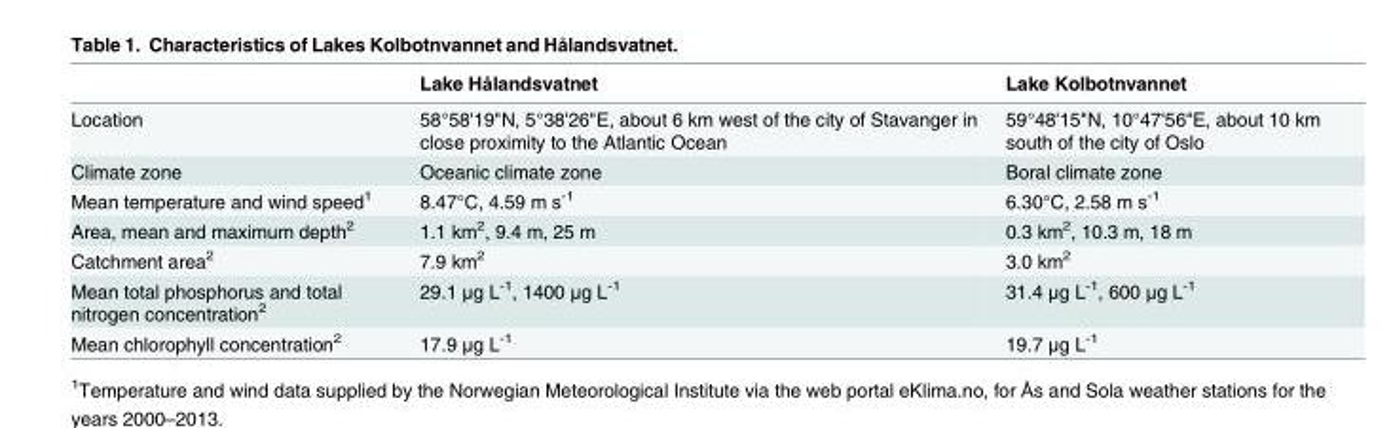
<table><thead><tr><td></td><td>Lake Hålandsvatnet</td><td>Lake Kolbotnvannet</td></tr></thead><tbody><tr><td>Location</td><td>58°58&#x27;19&quot;N, 5°38&#x27;26&quot;E, about 6 km west of the city of Stavanger in close proximity to the Atlantic Ocean</td><td>59°48&#x27;15&quot;N, 10°47&#x27;56&quot;E, about 10 km south of the city of Oslo</td></tr><tr><td>Climate zone</td><td>Oceanic climate zone</td><td>Boral climate zone</td></tr><tr><td>Mean temperature and wind speed<sup>1</sup></td><td>8.47°C, 4.59 m s<sup>-1</sup></td><td>6.30°C, 2.58 m s<sup>-1</sup></td></tr><tr><td>Area, mean and maximum depth<sup>2</sup></td><td>1.1 km<sup>2</sup>, 9.4 m, 25 m</td><td>0.3 km<sup>2</sup>, 10.3 m, 18 m</td></tr><tr><td>Catchment area<sup>2</sup></td><td>7.9 km<sup>2</sup></td><td>3.0 km<sup>2</sup></td></tr><tr><td>Mean total phosphorus and total nitrogen concentration<sup>2</sup></td><td>29.1 μg L<sup>-1</sup>, 1400 μg L<sup>-1</sup></td><td>31.4 μg L<sup>-1</sup>, 600 μg L<sup>-1</sup></td></tr><tr><td>Mean chlorophyll concentration<sup>2</sup></td><td>17.9 μg L<sup>-1</sup></td><td>19.7 μg L<sup>-1</sup></td></tr></tbody></table>